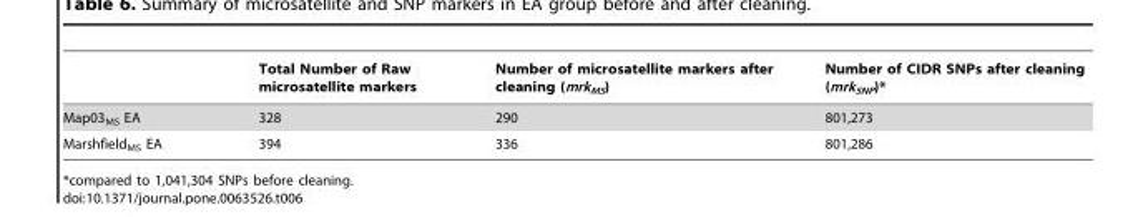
<table><thead><tr><td></td><td>Total Number of Raw microsatellite markers</td><td>Number of microsatellite markers after cleaning (mrk<sub>MS</sub>)</td><td>Number of CIDR SNPs after cleaning (mrk<sub>SNP</sub>)*</td></tr></thead><tbody><tr><td>Map03<sub>MS</sub> EA</td><td>328</td><td>290</td><td>801,273</td></tr><tr><td>Marshfield<sub>MS</sub> EA</td><td>394</td><td>336</td><td>801,286</td></tr></tbody></table>